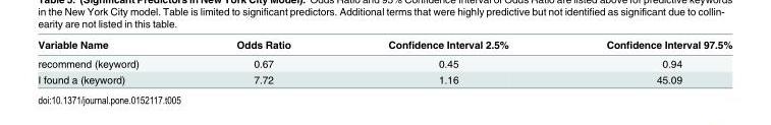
<table><thead><tr><td>Variable Name</td><td>Odds Ratio</td><td>Confidence Interval 2.5%</td><td>Confidence Interval 97.5%</td></tr></thead><tbody><tr><td>recommend (keyword)</td><td>0.67</td><td>0.45</td><td>0.94</td></tr><tr><td>I found a (keyword)</td><td>7.72</td><td>1.16</td><td>45.09</td></tr></tbody></table>